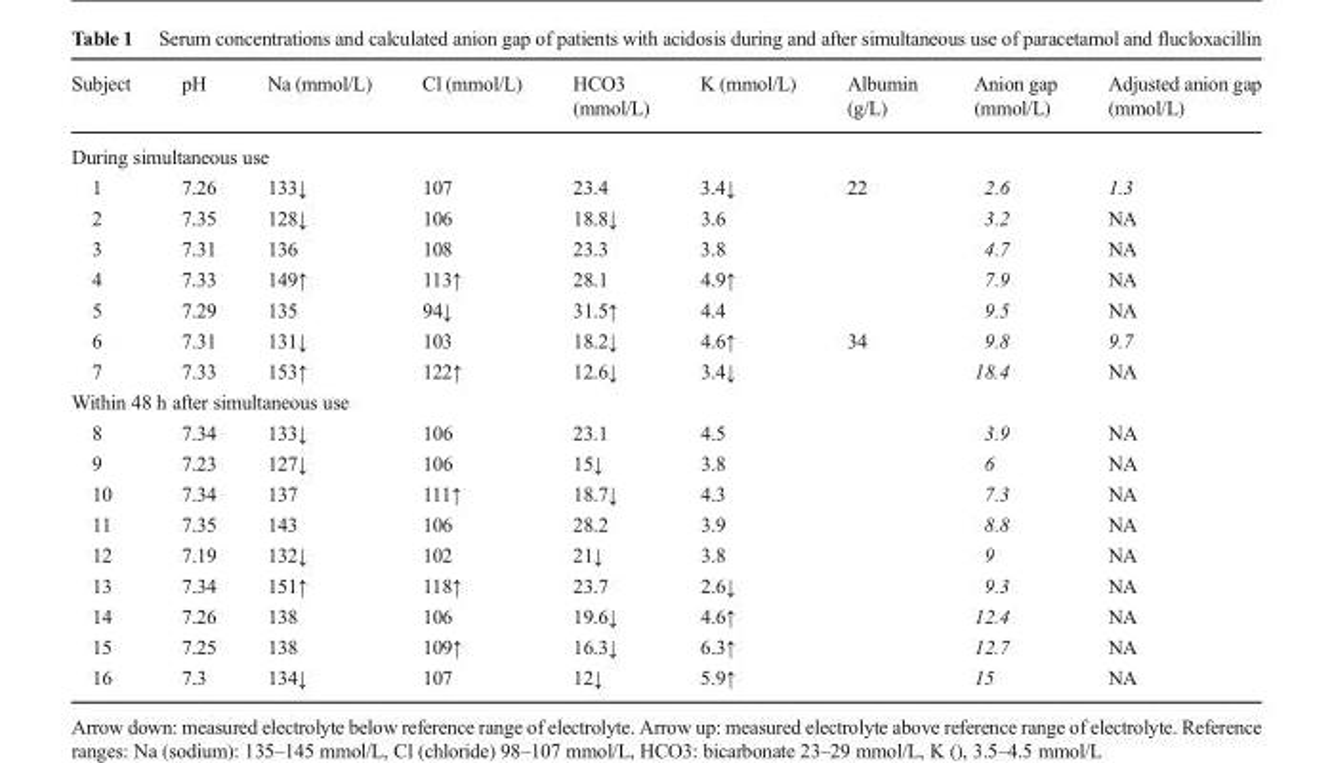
<table><thead><tr><td>Subject</td><td>pH</td><td>Na (mmol/L)</td><td>Cl (mmol/L)</td><td>HCO3 (mmol/L)</td><td>K (mmol/L)</td><td>Albumin (g/L)</td><td>Anion gap (mmol/L)</td><td>Adjusted anion gap (mmol/L)</td></tr></thead><tbody><tr><td colspan="9">During simultaneous use</td></tr><tr><td>1</td><td>7.26</td><td>133↓</td><td>107</td><td>23.4</td><td>3.4↓</td><td>22</td><td>2.6</td><td>1.3</td></tr><tr><td>2</td><td>7.35</td><td>128↓</td><td>106</td><td>18.8↓</td><td>3.6</td><td></td><td>3.2</td><td>NA</td></tr><tr><td>3</td><td>7.31</td><td>136</td><td>108</td><td>23.3</td><td>3.8</td><td></td><td>4.7</td><td>NA</td></tr><tr><td>4</td><td>7.33</td><td>149↑</td><td>113↑</td><td>28.1</td><td>4.9↑</td><td></td><td>7.9</td><td>NA</td></tr><tr><td>5</td><td>7.29</td><td>135</td><td>94↓</td><td>31.5↑</td><td>4.4</td><td></td><td>9.5</td><td>NA</td></tr><tr><td>6</td><td>7.31</td><td>131↓</td><td>103</td><td>18.2↓</td><td>4.6↑</td><td>34</td><td>9.8</td><td>9.7</td></tr><tr><td>7</td><td>7.33</td><td>153↑</td><td>122↑</td><td>12.6↓</td><td>3.4↓</td><td></td><td>18.4</td><td>NA</td></tr><tr><td colspan="9">Within 48 h after simultaneous use</td></tr><tr><td>8</td><td>7.34</td><td>133↓</td><td>106</td><td>23.1</td><td>4.5</td><td></td><td>3.9</td><td>NA</td></tr><tr><td>9</td><td>7.23</td><td>127↓</td><td>106</td><td>15↓</td><td>3.8</td><td></td><td>6</td><td>NA</td></tr><tr><td>10</td><td>7.34</td><td>137</td><td>111↑</td><td>18.7↓</td><td>4.3</td><td></td><td>7.3</td><td>NA</td></tr><tr><td>11</td><td>7.35</td><td>143</td><td>106</td><td>28.2</td><td>3.9</td><td></td><td>8.8</td><td>NA</td></tr><tr><td>12</td><td>7.19</td><td>132↓</td><td>102</td><td>21↓</td><td>3.8</td><td></td><td>9</td><td>NA</td></tr><tr><td>13</td><td>7.34</td><td>151↑</td><td>118↑</td><td>23.7</td><td>2.6↓</td><td></td><td>9.3</td><td>NA</td></tr><tr><td>14</td><td>7.26</td><td>138</td><td>106</td><td>19.6↓</td><td>4.6↑</td><td></td><td>12.4</td><td>NA</td></tr><tr><td>15</td><td>7.25</td><td>138</td><td>109↑</td><td>16.3↓</td><td>6.3↑</td><td></td><td>12.7</td><td>NA</td></tr><tr><td>16</td><td>7.3</td><td>134↓</td><td>107</td><td>12↓</td><td>5.9↑</td><td></td><td>15</td><td>NA</td></tr></tbody></table>